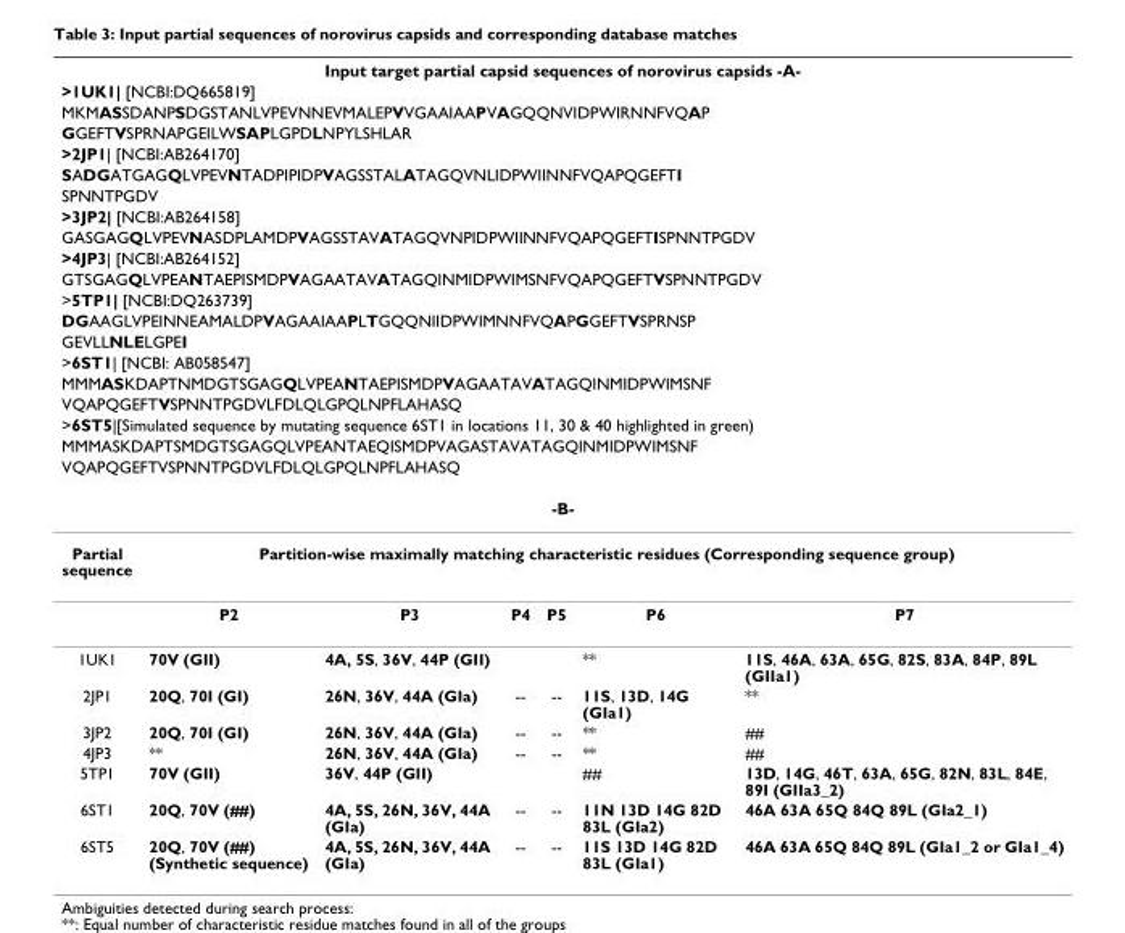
<table><thead><tr><td rowspan="21" colspan="7">Input target partial capsid sequences of norovirus capsids -A- &gt;1UK1| [NCBI:DQ665819] MKMASSDANPSDGSTANLVPEVNNEVMALEPVVGAAIAAPVAGQQNVIDPWIRNNFVQAP GGEFTVSPRNAPGEILWSAPLGPDLNPYLSHLAR &gt;2JP1| [NCBI:AB264170] SADGATGAGQLVPEVNTADPIPIDPVAGSSTALATAGQVNLIDPWIINNFVQAPQGEFTI SPNNTPGDV &gt;3JP2| [NCBI:AB264158] GASGAGQLVPEVNASDPLAMDPVAGSSTAVATAGQVNPIDPWIINNFVQAPQGEFTISPNNTPGDV &gt;4JP3| [NCBI:AB264152] GTSGAGQLVPEANTAEPISMDPVAGAATAVATAGQINMIDPWIMSNFVQAPQGEFTVSPNNTPGDV &gt;5TP1| [NCBI:DQ263739] DGAAGLVPEINNEAMALDPVAGAAIAAPLTGQQNIIDPWIMNNFVQAPGGEFTVSPRNSP GEVLLNLELGPEI &gt;6ST1| [NCBI: AB058547] MMMASKDAPTNMDGTSGAGQLVPEANTAEPISMDPVAGAATAVATAGQINMIDPWIMSNF VQAPQGEFTVSPNNTPGDVLFDLQLGPQLNPFLAHASQ &gt;6ST5|[Simulated sequence by mutating sequence 6ST1 in locations 11, 30 &amp; 40 highlighted in green) MMMASKDAPTSMDGTSGAGQLVPEANTAEQISMDPVAGASTAVATAGQINMIDPWIMSNF VQAPQGEFTVSPNNTPGDVLFDLQLGPQLNPFLAHASQ -B-</td></tr><tr></tr><tr></tr><tr></tr><tr></tr><tr></tr><tr></tr><tr></tr><tr></tr><tr></tr><tr></tr><tr></tr><tr></tr><tr></tr><tr></tr><tr></tr><tr></tr><tr></tr><tr></tr><tr></tr><tr></tr><tr><td rowspan="2">Partial sequence</td><td colspan="6">Partition-wise maximally matching characteristic residues (Corresponding sequence group)</td></tr><tr><td>P2</td><td>P3</td><td>P4</td><td>P5</td><td>P6</td><td>P7</td></tr></thead><tbody><tr><td>1UK1</td><td>70V (GII)</td><td>4A, 5S, 36V, 44P (GII)</td><td></td><td></td><td>**</td><td>11S, 46A, 63A, 65G, 82S, 83A, 84P, 89L (GIIa1)</td></tr><tr><td>2JP1</td><td>20Q, 70I (GI)</td><td>26N, 36V, 44A (GIa)</td><td>--</td><td>--</td><td>11S, 13D, 14G (GIa1)</td><td>**</td></tr><tr><td>3JP2</td><td>20Q, 70I (GI)</td><td>26N, 36V, 44A (GIa)</td><td>--</td><td>--</td><td>**</td><td>##</td></tr><tr><td>4JP3</td><td>**</td><td>26N, 36V, 44A (GIa)</td><td>--</td><td>--</td><td>**</td><td>##</td></tr><tr><td>5TP1</td><td>70V (GII)</td><td>36V, 44P (GII)</td><td></td><td></td><td>##</td><td>13D, 14G, 46T, 63A, 65G, 82N, 83L, 84E, 89I (GIIa3_2)</td></tr><tr><td>6ST1</td><td>20Q, 70V (##)</td><td>4A, 5S, 26N, 36V, 44A (GIa)</td><td>--</td><td>--</td><td>11N 13D 14G 82D 83L (GIa2)</td><td>46A 63A 65Q 84Q 89L (GIa2_1)</td></tr><tr><td>6ST5</td><td>20Q, 70V (##) (Synthetic sequence)</td><td>4A, 5S, 26N, 36V, 44A (GIa)</td><td>--</td><td>--</td><td>11S 13D 14G 82D 83L (GIa1)</td><td>46A 63A 65Q 84Q 89L (GIa1_2 or GIa1_4)</td></tr></tbody></table>